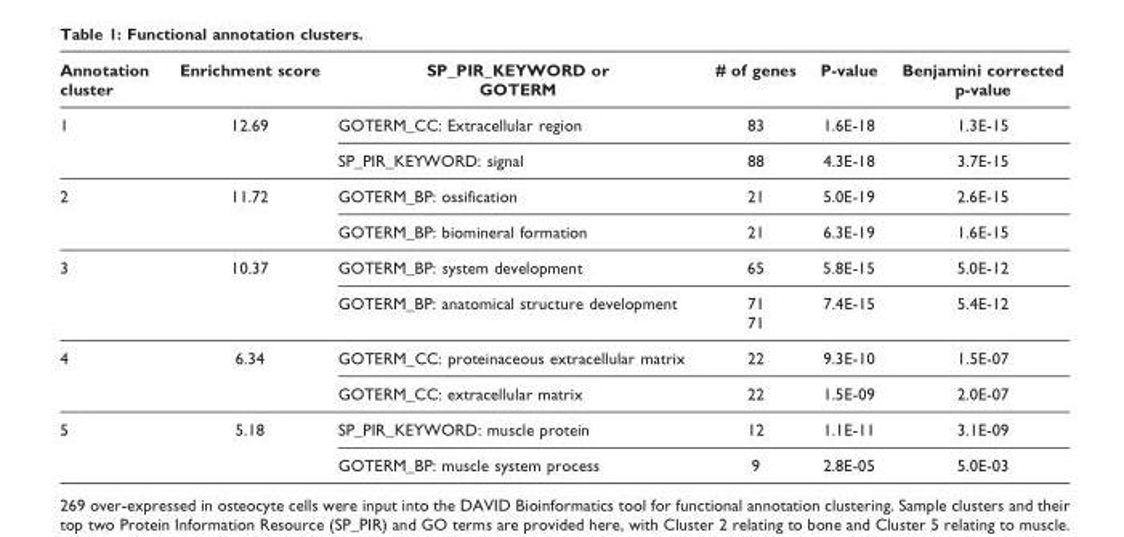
<table><thead><tr><td>Annotation cluster</td><td>Enrichment score</td><td>SP_PIR_KEYWORD or GOTERM</td><td># of genes</td><td>P-value</td><td>Benjamini corrected p-value</td></tr></thead><tbody><tr><td rowspan="2">1</td><td>12.69</td><td>GOTERM_CC: Extracellular region</td><td>83</td><td>1.6E-18</td><td>1.3E-15</td></tr><tr><td></td><td>SP_PIR_KEYWORD: signal</td><td>88</td><td>4.3E-18</td><td>3.7E-15</td></tr><tr><td rowspan="2">2</td><td>11.72</td><td>GOTERM_BP: ossification</td><td>21</td><td>5.0E-19</td><td>2.6E-15</td></tr><tr><td></td><td>GOTERM_BP: biomineral formation</td><td>21</td><td>6.3E-19</td><td>1.6E-15</td></tr><tr><td rowspan="2">3</td><td>10.37</td><td>GOTERM_BP: system development</td><td>65</td><td>5.8E-15</td><td>5.0E-12</td></tr><tr><td></td><td>GOTERM_BP: anatomical structure development</td><td>71 71</td><td>7.4E-15</td><td>5.4E-12</td></tr><tr><td rowspan="2">4</td><td>6.34</td><td>GOTERM_CC: proteinaceous extracellular matrix</td><td>22</td><td>9.3E-10</td><td>1.5E-07</td></tr><tr><td></td><td>GOTERM_CC: extracellular matrix</td><td>22</td><td>1.5E-09</td><td>2.0E-07</td></tr><tr><td rowspan="2">5</td><td>5.18</td><td>SP_PIR_KEYWORD: muscle protein</td><td>12</td><td>1.1E-11</td><td>3.1E-09</td></tr><tr><td></td><td>GOTERM_BP: muscle system process</td><td>9</td><td>2.8E-05</td><td>5.0E-03</td></tr></tbody></table>